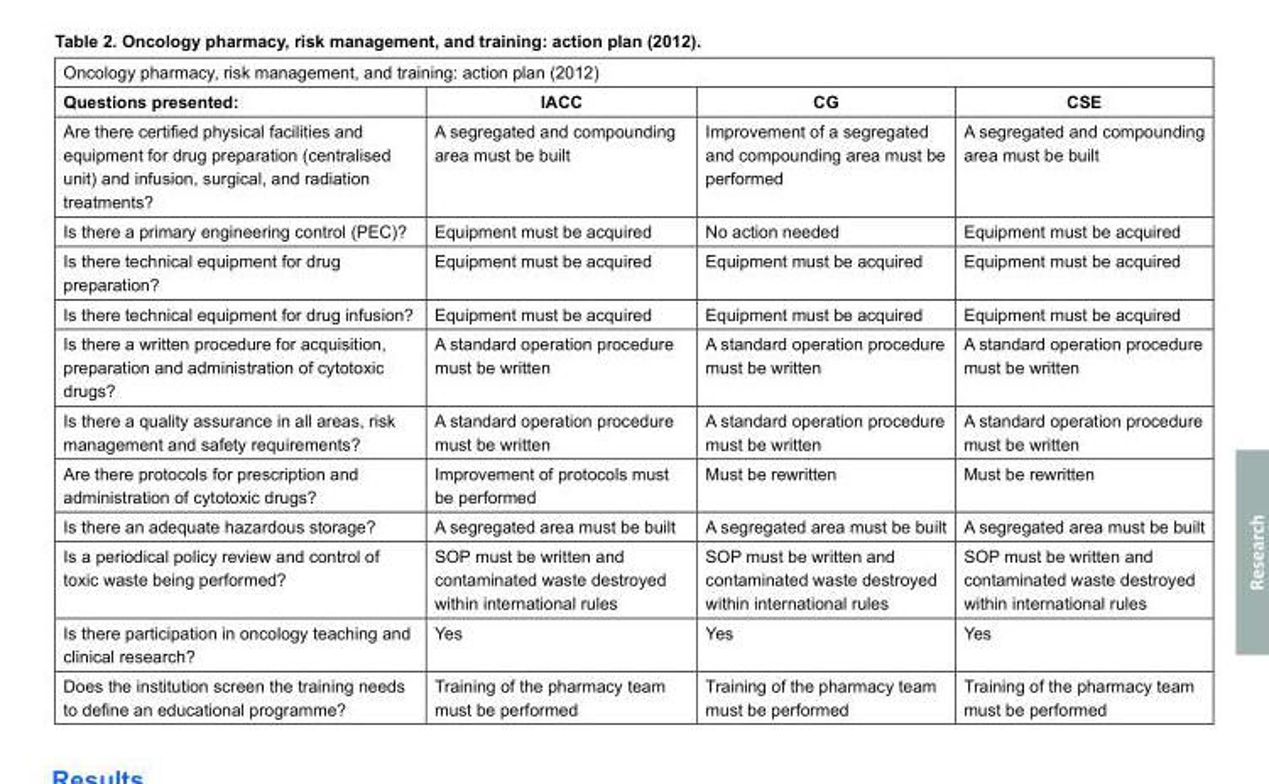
<table><thead><tr><td colspan="4">Oncology pharmacy, risk management, and training: action plan (2012)</td></tr><tr><td>Questions presented:</td><td>IACC</td><td>CG</td><td>CSE</td></tr></thead><tbody><tr><td>Are there certified physical facilities and equipment for drug preparation (centralised unit) and infusion, surgical, and radiation treatments?</td><td>A segregated and compounding area must be built</td><td>Improvement of a segregated and compounding area must be performed</td><td>A segregated and compounding area must be built</td></tr><tr><td>Is there a primary engineering control (PEC)?</td><td>Equipment must be acquired</td><td>No action needed</td><td>Equipment must be acquired</td></tr><tr><td>Is there technical equipment for drug preparation?</td><td>Equipment must be acquired</td><td>Equipment must be acquired</td><td>Equipment must be acquired</td></tr><tr><td>Is there technical equipment for drug infusion?</td><td>Equipment must be acquired</td><td>Equipment must be acquired</td><td>Equipment must be acquired</td></tr><tr><td>Is there a written procedure for acquisition, preparation and administration of cytotoxic drugs?</td><td>A standard operation procedure must be written</td><td>A standard operation procedure must be written</td><td>A standard operation procedure must be written</td></tr><tr><td>Is there a quality assurance in all areas, risk management and safety requirements?</td><td>A standard operation procedure must be written</td><td>A standard operation procedure must be written</td><td>A standard operation procedure must be written</td></tr><tr><td>Are there protocols for prescription and administration of cytotoxic drugs?</td><td>Improvement of protocols must be performed</td><td>Must be rewritten</td><td>Must be rewritten</td></tr><tr><td>Is there an adequate hazardous storage?</td><td>A segregated area must be built</td><td>A segregated area must be built</td><td>A segregated area must be built</td></tr><tr><td>Is a periodical policy review and control of toxic waste being performed?</td><td>SOP must be written and contaminated waste destroyed within international rules</td><td>SOP must be written and contaminated waste destroyed within international rules</td><td>SOP must be written and contaminated waste destroyed within international rules</td></tr><tr><td>Is there participation in oncology teaching and clinical research?</td><td>Yes</td><td>Yes</td><td>Yes</td></tr><tr><td>Does the institution screen the training needs to define an educational programme?</td><td>Training of the pharmacy team must be performed</td><td>Training of the pharmacy team must be performed</td><td>Training of the pharmacy team must be performed</td></tr></tbody></table>